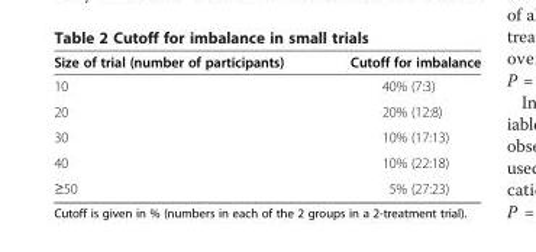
<table><thead><tr><td>Size of trial (number of participants)</td><td>Cutoff for imbalance</td></tr></thead><tbody><tr><td>10</td><td>40% (7:3)</td></tr><tr><td>20</td><td>20% (12:8)</td></tr><tr><td>30</td><td>10% (17:13)</td></tr><tr><td>40</td><td>10% (22:18)</td></tr><tr><td>≥50</td><td>5% (27:23)</td></tr></tbody></table>